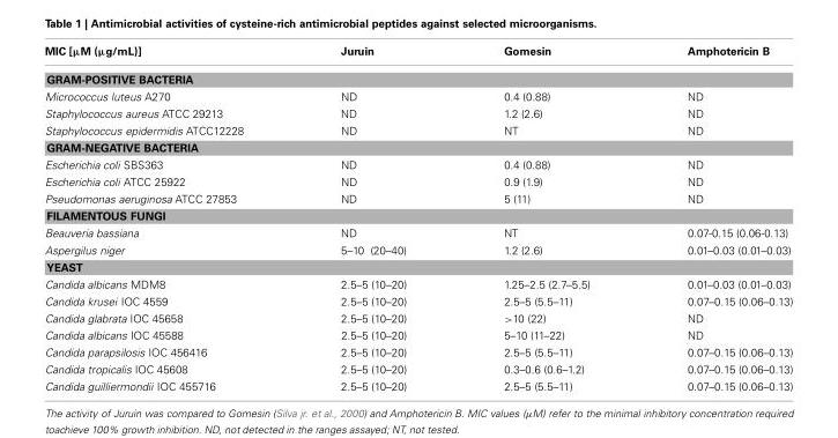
<table><thead><tr><td>MIC [µM (µg/mL)]</td><td>Juruin</td><td>Gomesin</td><td>Amphotericin B</td></tr></thead><tbody><tr><td colspan="4">GRAM-POSITIVE BACTERIA</td></tr><tr><td>Micrococcus luteus A270</td><td>ND</td><td>0.4 (0.88)</td><td>ND</td></tr><tr><td>Staphylococcus aureus ATCC 29213</td><td>ND</td><td>1.2 (2.6)</td><td>ND</td></tr><tr><td>Staphylococcus epidermidis ATCC12228</td><td>ND</td><td>NT</td><td>ND</td></tr><tr><td colspan="4">GRAM-NEGATIVE BACTERIA</td></tr><tr><td>Escherichia coli SBS363</td><td>ND</td><td>0.4 (0.88)</td><td>ND</td></tr><tr><td>Escherichia coli ATCC 25922</td><td>ND</td><td>0.9 (1.9)</td><td>ND</td></tr><tr><td>Pseudomonas aeruginosa ATCC 27853</td><td>ND</td><td>5 (11)</td><td>ND</td></tr><tr><td colspan="4">FILAMENTOUS FUNGI</td></tr><tr><td>Beauveria bassiana</td><td>ND</td><td>NT</td><td>0.07-0.15 (0.06-0.13)</td></tr><tr><td>Aspergilus niger</td><td>5–10 (20–40)</td><td>1.2 (2.6)</td><td>0.01–0.03 (0.01–0.03)</td></tr><tr><td colspan="4">YEAST</td></tr><tr><td>Candida albicans MDM8</td><td>2.5–5 (10–20)</td><td>1.25–2.5 (2.7–5.5)</td><td>0.01–0.03 (0.01–0.03)</td></tr><tr><td>Candida krusei IOC 4559</td><td>2.5–5 (10–20)</td><td>2.5–5 (5.5–11)</td><td>0.07–0.15 (0.06–0.13)</td></tr><tr><td>Candida glabrata IOC 45658</td><td>2.5–5 (10–20)</td><td>&gt;10 (22)</td><td>ND</td></tr><tr><td>Candida albicans IOC 45588</td><td>2.5–5 (10–20)</td><td>5–10 (11–22)</td><td>ND</td></tr><tr><td>Candida parapsilosis IOC 456416</td><td>2.5–5 (10–20)</td><td>2.5–5 (5.5–11)</td><td>0.07–0.15 (0.06–0.13)</td></tr><tr><td>Candida tropicalis IOC 45608</td><td>2.5–5 (10–20)</td><td>0.3–0.6 (0.6–1.2)</td><td>0.07–0.15 (0.06–0.13)</td></tr><tr><td>Candida guilliermondii IOC 455716</td><td>2.5–5 (10–20)</td><td>2.5–5 (5.5–11)</td><td>0.07–0.15 (0.06–0.13)</td></tr></tbody></table>